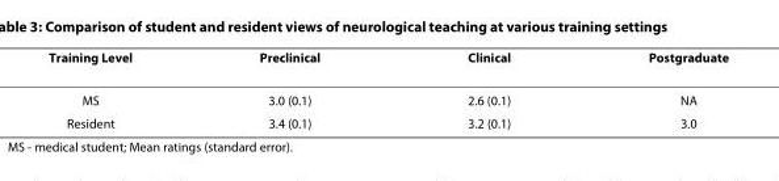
<table><thead><tr><td>Training Level</td><td>Preclinical</td><td>Clinical</td><td>Postgraduate</td></tr></thead><tbody><tr><td>MS</td><td>3.0 (0.1)</td><td>2.6 (0.1)</td><td>NA</td></tr><tr><td>Resident</td><td>3.4 (0.1)</td><td>3.2 (0.1)</td><td>3.0</td></tr></tbody></table>